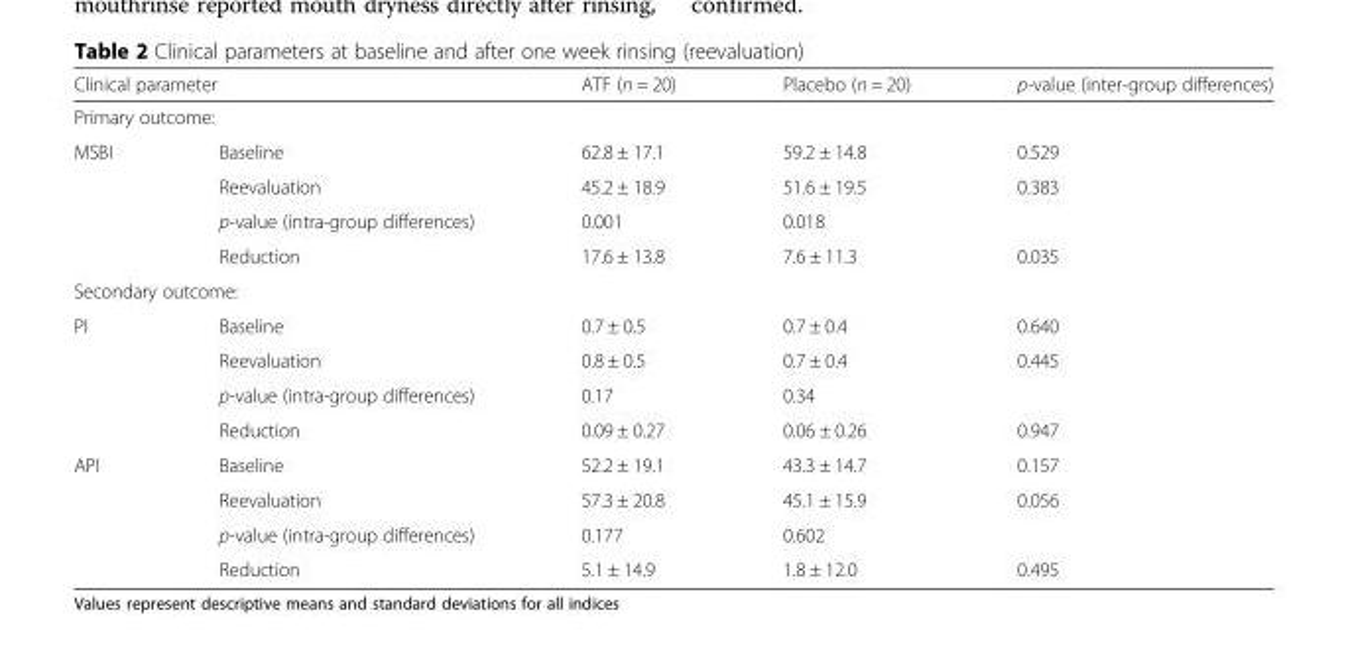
<table><thead><tr><td rowspan="2" colspan="2">Clinical parameter Primary outcome:</td><td rowspan="3">ATF (n = 20) 62.8 ± 17.1</td><td rowspan="3">Placebo (n = 20) 59.2 ± 14.8</td><td rowspan="3">p-value (inter-group differences) 0.529</td></tr><tr></tr><tr><td>MSBI</td><td>Baseline</td></tr></thead><tbody><tr><td></td><td>Reevaluation</td><td>45.2 ± 18.9</td><td>51.6 ± 19.5</td><td>0.383</td></tr><tr><td></td><td>p-value (intra-group differences)</td><td>0.001</td><td>0.018</td><td></td></tr><tr><td></td><td>Reduction</td><td>17.6 ± 13.8</td><td>7.6 ± 11.3</td><td>0.035</td></tr><tr><td colspan="5">Secondary outcome:</td></tr><tr><td rowspan="4">PI</td><td>Baseline</td><td>0.7 ± 0.5</td><td>0.7 ± 0.4</td><td>0.640</td></tr><tr><td>Reevaluation</td><td>0.8 ± 0.5</td><td>0.7 ± 0.4</td><td>0.445</td></tr><tr><td>p-value (intra-group differences)</td><td>0.17</td><td>0.34</td><td></td></tr><tr><td>Reduction</td><td>0.09 ± 0.27</td><td>0.06 ± 0.26</td><td>0.947</td></tr><tr><td rowspan="4">API</td><td>Baseline</td><td>52.2 ± 19.1</td><td>43.3 ± 14.7</td><td>0.157</td></tr><tr><td>Reevaluation</td><td>57.3 ± 20.8</td><td>45.1 ± 15.9</td><td>0.056</td></tr><tr><td>p-value (intra-group differences)</td><td>0.177</td><td>0.602</td><td></td></tr><tr><td>Reduction</td><td>5.1 ± 14.9</td><td>1.8 ± 12.0</td><td>0.495</td></tr></tbody></table>